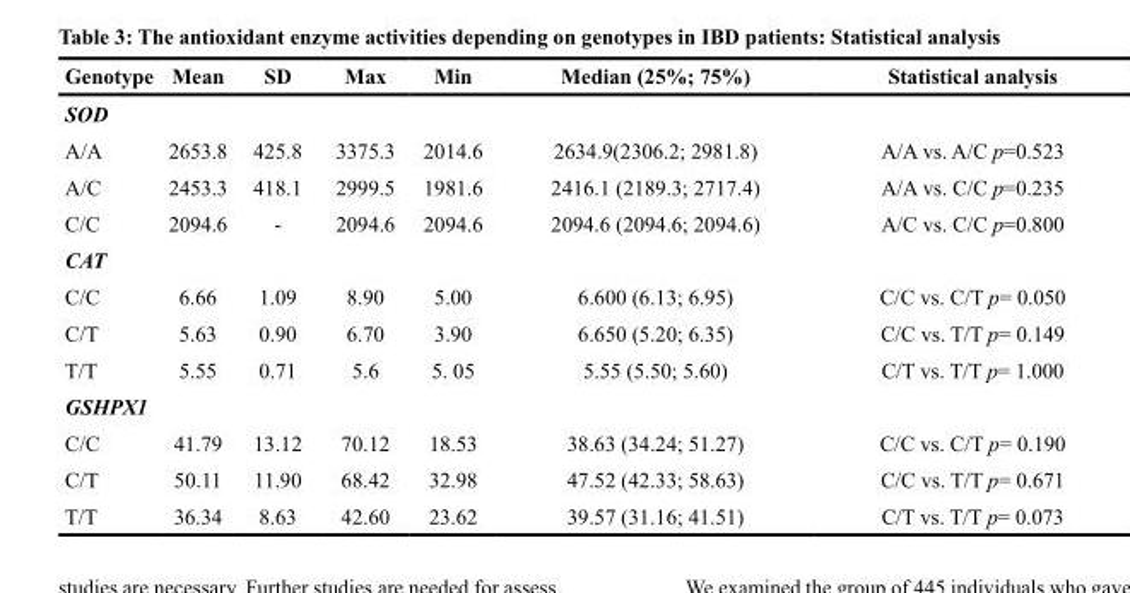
<table><thead><tr><td>Genotype</td><td>Mean</td><td>SD</td><td>Max</td><td>Min</td><td>Median (25%; 75%)</td><td>Statistical analysis</td></tr></thead><tbody><tr><td colspan="7">SOD</td></tr><tr><td>A/A</td><td>2653.8</td><td>425.8</td><td>3375.3</td><td>2014.6</td><td>2634.9(2306.2; 2981.8)</td><td>A/A vs. A/C p=0.523</td></tr><tr><td>A/C</td><td>2453.3</td><td>418.1</td><td>2999.5</td><td>1981.6</td><td>2416.1 (2189.3; 2717.4)</td><td>A/A vs. C/C p=0.235</td></tr><tr><td>C/C</td><td>2094.6</td><td>-</td><td>2094.6</td><td>2094.6</td><td>2094.6 (2094.6; 2094.6)</td><td>A/C vs. C/C p=0.800</td></tr><tr><td colspan="7">CAT</td></tr><tr><td>C/C</td><td>6.66</td><td>1.09</td><td>8.90</td><td>5.00</td><td>6.600 (6.13; 6.95)</td><td>C/C vs. C/T p= 0.050</td></tr><tr><td>C/T</td><td>5.63</td><td>0.90</td><td>6.70</td><td>3.90</td><td>6.650 (5.20; 6.35)</td><td>C/C vs. T/T p= 0.149</td></tr><tr><td>T/T</td><td>5.55</td><td>0.71</td><td>5.6</td><td>5. 05</td><td>5.55 (5.50; 5.60)</td><td>C/T vs. T/T p= 1.000</td></tr><tr><td colspan="7">GSHPX1</td></tr><tr><td>C/C</td><td>41.79</td><td>13.12</td><td>70.12</td><td>18.53</td><td>38.63 (34.24; 51.27)</td><td>C/C vs. C/T p= 0.190</td></tr><tr><td>C/T</td><td>50.11</td><td>11.90</td><td>68.42</td><td>32.98</td><td>47.52 (42.33; 58.63)</td><td>C/C vs. T/T p= 0.671</td></tr><tr><td>T/T</td><td>36.34</td><td>8.63</td><td>42.60</td><td>23.62</td><td>39.57 (31.16; 41.51)</td><td>C/T vs. T/T p= 0.073</td></tr></tbody></table>